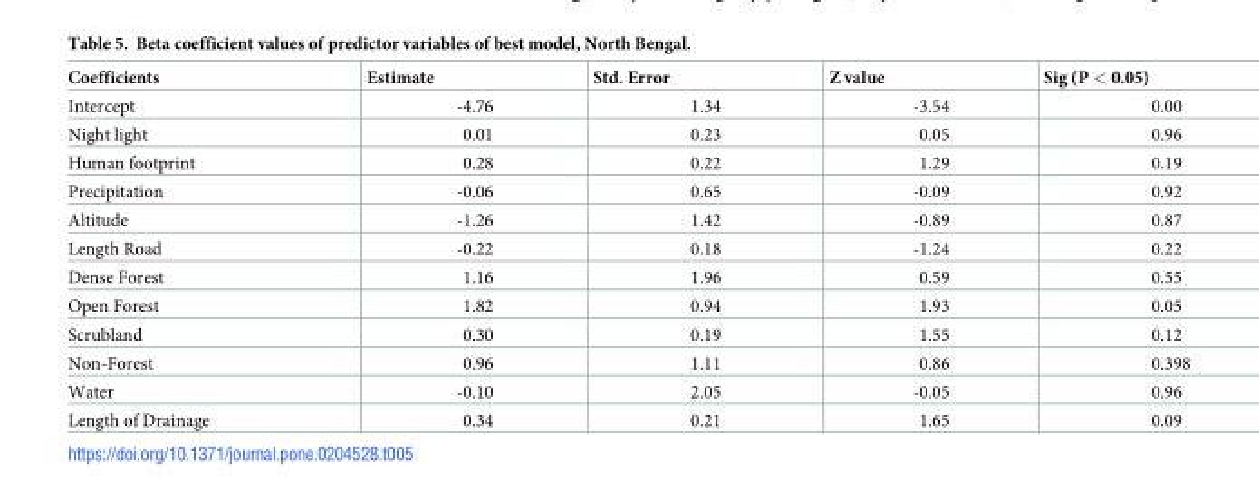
<table><thead><tr><td>Coefficients</td><td>Estimate</td><td>Std. Error</td><td>Z value</td><td>Sig (P &lt; 0.05)</td></tr></thead><tbody><tr><td>Intercept</td><td>-4.76</td><td>1.34</td><td>-3.54</td><td>0.00</td></tr><tr><td>Night light</td><td>0.01</td><td>0.23</td><td>0.05</td><td>0.96</td></tr><tr><td>Human footprint</td><td>0.28</td><td>0.22</td><td>1.29</td><td>0.19</td></tr><tr><td>Precipitation</td><td>-0.06</td><td>0.65</td><td>-0.09</td><td>0.92</td></tr><tr><td>Altitude</td><td>-1.26</td><td>1.42</td><td>-0.89</td><td>0.87</td></tr><tr><td>Length Road</td><td>-0.22</td><td>0.18</td><td>-1.24</td><td>0.22</td></tr><tr><td>Dense Forest</td><td>1.16</td><td>1.96</td><td>0.59</td><td>0.55</td></tr><tr><td>Open Forest</td><td>1.82</td><td>0.94</td><td>1.93</td><td>0.05</td></tr><tr><td>Scrubland</td><td>0.30</td><td>0.19</td><td>1.55</td><td>0.12</td></tr><tr><td>Non-Forest</td><td>0.96</td><td>1.11</td><td>0.86</td><td>0.398</td></tr><tr><td>Water</td><td>-0.10</td><td>2.05</td><td>-0.05</td><td>0.96</td></tr><tr><td>Length of Drainage</td><td>0.34</td><td>0.21</td><td>1.65</td><td>0.09</td></tr></tbody></table>